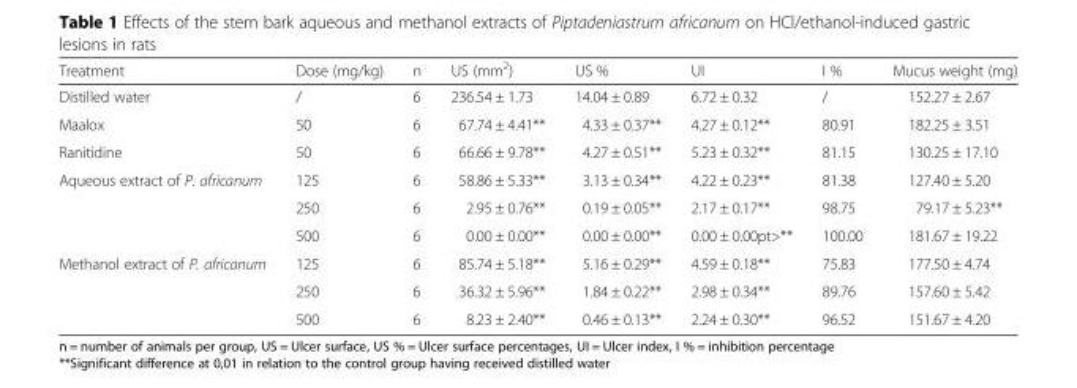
<table><thead><tr><td>Treatment</td><td>Dose (mg/kg)</td><td>n</td><td>US (mm<sup>2</sup>)</td><td>US %</td><td>UI</td><td>I %</td><td>Mucus weight (mg)</td></tr></thead><tbody><tr><td>Distilled water</td><td>/</td><td>6</td><td>236.54 ± 1.73</td><td>14.04 ± 0.89</td><td>6.72 ± 0.32</td><td>/</td><td>152.27 ± 2.67</td></tr><tr><td>Maalox</td><td>50</td><td>6</td><td>67.74 ± 4.41**</td><td>4.33 ± 0.37**</td><td>4.27 ± 0.12**</td><td>80.91</td><td>182.25 ± 3.51</td></tr><tr><td>Ranitidine</td><td>50</td><td>6</td><td>66.66 ± 9.78**</td><td>4.27 ± 0.51**</td><td>5.23 ± 0.32**</td><td>81.15</td><td>130.25 ± 17.10</td></tr><tr><td rowspan="3">Aqueous extract of P. africanum</td><td>125</td><td>6</td><td>58.86 ± 5.33**</td><td>3.13 ± 0.34**</td><td>4.22 ± 0.23**</td><td>81.38</td><td>127.40 ± 5.20</td></tr><tr><td>250</td><td>6</td><td>2.95 ± 0.76**</td><td>0.19 ± 0.05**</td><td>2.17 ± 0.17**</td><td>98.75</td><td>79.17 ± 5.23**</td></tr><tr><td>500</td><td>6</td><td>0.00 ± 0.00**</td><td>0.00 ± 0.00**</td><td>0.00 ± 0.00pt&gt;**</td><td>100.00</td><td>181.67 ± 19.22</td></tr><tr><td rowspan="3">Methanol extract of P. africanum</td><td>125</td><td>6</td><td>85.74 ± 5.18**</td><td>5.16 ± 0.29**</td><td>4.59 ± 0.18**</td><td>75.83</td><td>177.50 ± 4.74</td></tr><tr><td>250</td><td>6</td><td>36.32 ± 5.96**</td><td>1.84 ± 0.22**</td><td>2.98 ± 0.34**</td><td>89.76</td><td>157.60 ± 5.42</td></tr><tr><td>500</td><td>6</td><td>8.23 ± 2.40**</td><td>0.46 ± 0.13**</td><td>2.24 ± 0.30**</td><td>96.52</td><td>151.67 ± 4.20</td></tr></tbody></table>